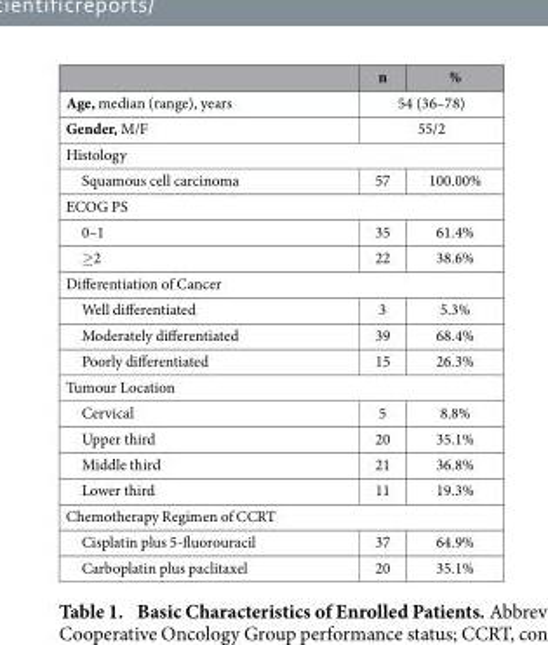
<table><thead><tr><td></td><td>n</td><td>%</td></tr></thead><tbody><tr><td>Age, median (range), years</td><td colspan="2">54 (36–78)</td></tr><tr><td>Gender, M/F</td><td colspan="2">55/2</td></tr><tr><td colspan="3">Histology</td></tr><tr><td>Squamous cell carcinoma</td><td>57</td><td>100.00%</td></tr><tr><td colspan="3">ECOG PS</td></tr><tr><td>0–1</td><td>35</td><td>61.4%</td></tr><tr><td>≥ 2</td><td>22</td><td>38.6%</td></tr><tr><td colspan="3">Differentiation of Cancer</td></tr><tr><td>Well differentiated</td><td>3</td><td>5.3%</td></tr><tr><td>Moderately differentiated</td><td>39</td><td>68.4%</td></tr><tr><td>Poorly differentiated</td><td>15</td><td>26.3%</td></tr><tr><td colspan="3">Tumour Location</td></tr><tr><td>Cervical</td><td>5</td><td>8.8%</td></tr><tr><td>Upper third</td><td>20</td><td>35.1%</td></tr><tr><td>Middle third</td><td>21</td><td>36.8%</td></tr><tr><td>Lower third</td><td>11</td><td>19.3%</td></tr><tr><td colspan="3">Chemotherapy Regimen of CCRT</td></tr><tr><td>Cisplatin plus 5-fluorouracil</td><td>37</td><td>64.9%</td></tr><tr><td>Carboplatin plus paclitaxel</td><td>20</td><td>35.1%</td></tr></tbody></table>